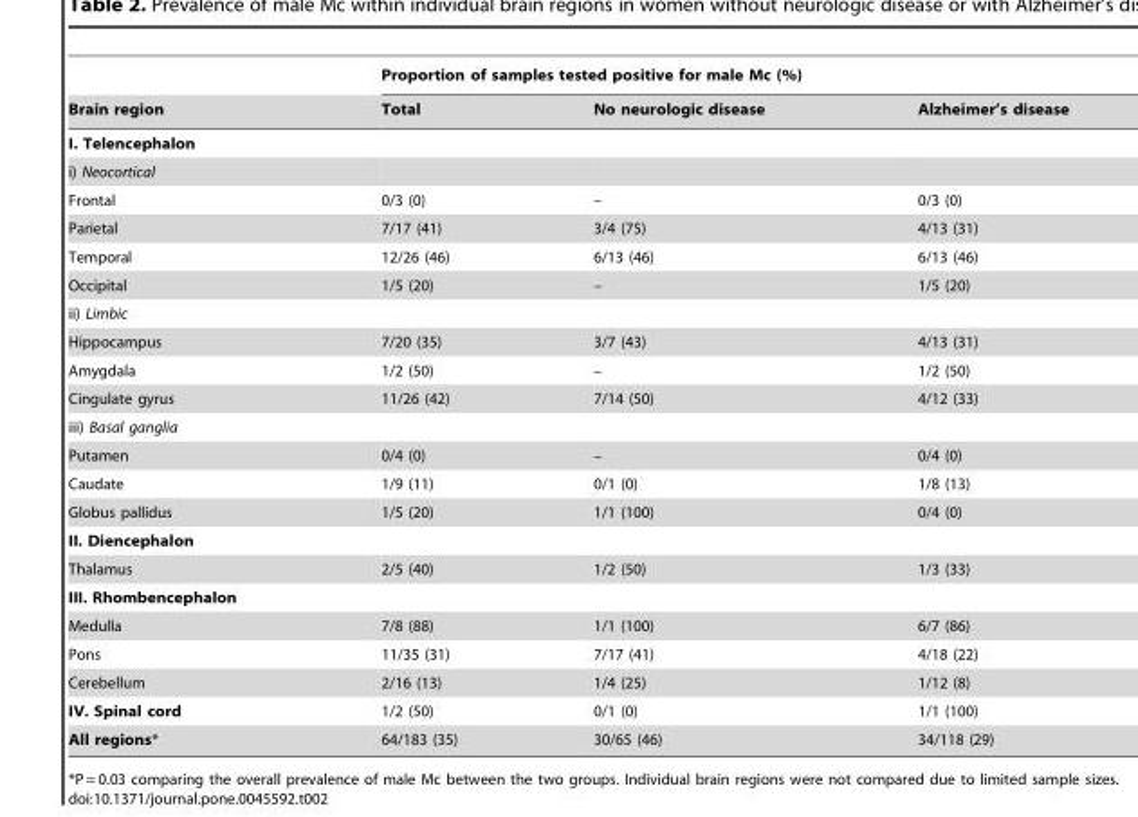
<table><thead><tr><td rowspan="2">Brain region</td><td colspan="3">Proportion of samples tested positive for male Mc (%)</td></tr><tr><td>Total</td><td>No neurologic disease</td><td>Alzheimer’s disease</td></tr></thead><tbody><tr><td colspan="4">I. Telencephalon</td></tr><tr><td colspan="4">i) Neocortical</td></tr><tr><td>Frontal</td><td>0/3 (0)</td><td>–</td><td>0/3 (0)</td></tr><tr><td>Parietal</td><td>7/17 (41)</td><td>3/4 (75)</td><td>4/13 (31)</td></tr><tr><td>Temporal</td><td>12/26 (46)</td><td>6/13 (46)</td><td>6/13 (46)</td></tr><tr><td>Occipital</td><td>1/5 (20)</td><td>–</td><td>1/5 (20)</td></tr><tr><td colspan="4">ii) Limbic</td></tr><tr><td>Hippocampus</td><td>7/20 (35)</td><td>3/7 (43)</td><td>4/13 (31)</td></tr><tr><td>Amygdala</td><td>1/2 (50)</td><td>–</td><td>1/2 (50)</td></tr><tr><td>Cingulate gyrus</td><td>11/26 (42)</td><td>7/14 (50)</td><td>4/12 (33)</td></tr><tr><td colspan="4">iii) Basal ganglia</td></tr><tr><td>Putamen</td><td>0/4 (0)</td><td>–</td><td>0/4 (0)</td></tr><tr><td>Caudate</td><td>1/9 (11)</td><td>0/1 (0)</td><td>1/8 (13)</td></tr><tr><td>Globus pallidus</td><td>1/5 (20)</td><td>1/1 (100)</td><td>0/4 (0)</td></tr><tr><td colspan="4">II. Diencephalon</td></tr><tr><td>Thalamus</td><td>2/5 (40)</td><td>1/2 (50)</td><td>1/3 (33)</td></tr><tr><td colspan="4">III. Rhombencephalon</td></tr><tr><td>Medulla</td><td>7/8 (88)</td><td>1/1 (100)</td><td>6/7 (86)</td></tr><tr><td>Pons</td><td>11/35 (31)</td><td>7/17 (41)</td><td>4/18 (22)</td></tr><tr><td>Cerebellum</td><td>2/16 (13)</td><td>1/4 (25)</td><td>1/12 (8)</td></tr><tr><td>IV. Spinal cord</td><td>1/2 (50)</td><td>0/1 (0)</td><td>1/1 (100)</td></tr><tr><td>All regions*</td><td>64/183 (35)</td><td>30/65 (46)</td><td>34/118 (29)</td></tr></tbody></table>